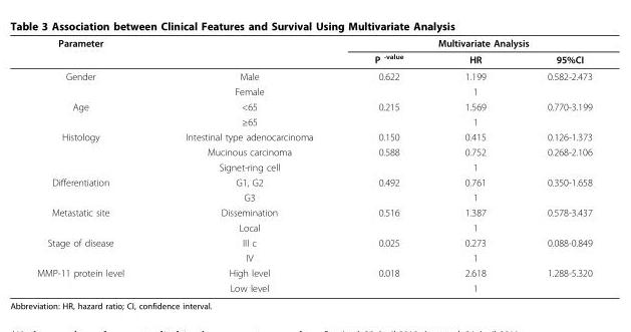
<table><thead><tr><td rowspan="2">Parameter</td><td rowspan="2"></td><td colspan="3">Multivariate Analysis</td></tr><tr><td>P <sup>-value</sup></td><td>HR</td><td>95%CI</td></tr></thead><tbody><tr><td rowspan="2">Gender</td><td>Male</td><td>0.622</td><td>1.199</td><td>0.582-2.473</td></tr><tr><td>Female</td><td></td><td>1</td><td></td></tr><tr><td rowspan="2">Age</td><td>&lt;65</td><td>0.215</td><td>1.569</td><td>0.770-3.199</td></tr><tr><td>≥65</td><td></td><td>1</td><td></td></tr><tr><td rowspan="3">Histology</td><td>Intestinal type adenocarcinoma</td><td>0.150</td><td>0.415</td><td>0.126-1.373</td></tr><tr><td>Mucinous carcinoma</td><td>0.588</td><td>0.752</td><td>0.268-2.106</td></tr><tr><td>Signet-ring cell</td><td></td><td>1</td><td></td></tr><tr><td rowspan="2">Differentiation</td><td>G1, G2</td><td>0.492</td><td>0.761</td><td>0.350-1.658</td></tr><tr><td>G3</td><td></td><td>1</td><td></td></tr><tr><td rowspan="2">Metastatic site</td><td>Dissemination</td><td>0.516</td><td>1.387</td><td>0.578-3.437</td></tr><tr><td>Local</td><td></td><td>1</td><td></td></tr><tr><td rowspan="2">Stage of disease</td><td>III c</td><td>0.025</td><td>0.273</td><td>0.088-0.849</td></tr><tr><td>IV</td><td></td><td>1</td><td></td></tr><tr><td rowspan="2">MMP-11 protein level</td><td>High level</td><td>0.018</td><td>2.618</td><td>1.288-5.320</td></tr><tr><td>Low level</td><td></td><td>1</td><td></td></tr></tbody></table>